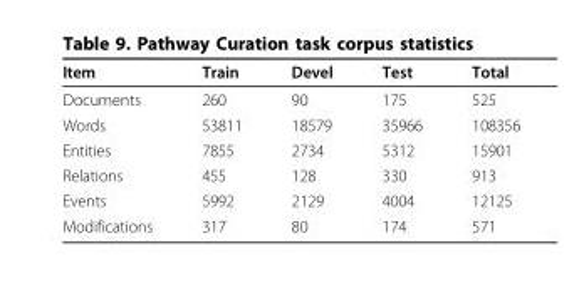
<table><thead><tr><td>Item</td><td>Train</td><td>Devel</td><td>Test</td><td>Total</td></tr></thead><tbody><tr><td>Documents</td><td>260</td><td>90</td><td>175</td><td>525</td></tr><tr><td>Words</td><td>53811</td><td>18579</td><td>35966</td><td>108356</td></tr><tr><td>Entities</td><td>7855</td><td>2734</td><td>5312</td><td>15901</td></tr><tr><td>Relations</td><td>455</td><td>128</td><td>330</td><td>913</td></tr><tr><td>Events</td><td>5992</td><td>2129</td><td>4004</td><td>12125</td></tr><tr><td>Modifications</td><td>317</td><td>80</td><td>174</td><td>571</td></tr></tbody></table>